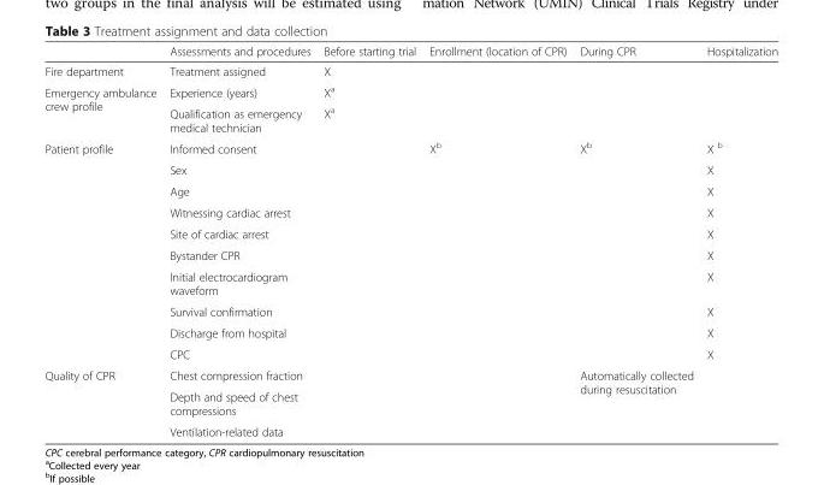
<table><thead><tr><td></td><td>Assessments and procedures</td><td>Before starting trial</td><td>Enrollment (location of CPR)</td><td>During CPR</td><td>Hospitalization</td></tr></thead><tbody><tr><td>Fire department</td><td>Treatment assigned</td><td>X</td><td></td><td></td><td></td></tr><tr><td rowspan="2">Emergency ambulance crew profile</td><td>Experience (years)</td><td>X<sup>a</sup></td><td></td><td></td><td></td></tr><tr><td>Qualification as emergency medical technician</td><td>X<sup>a</sup></td><td></td><td></td><td></td></tr><tr><td rowspan="10">Patient profile</td><td>Informed consent</td><td></td><td>X<sup>b</sup></td><td>X<sup>b</sup></td><td>X <sup>b</sup></td></tr><tr><td>Sex</td><td></td><td></td><td></td><td>X</td></tr><tr><td>Age</td><td></td><td></td><td></td><td>X</td></tr><tr><td>Witnessing cardiac arrest</td><td></td><td></td><td></td><td>X</td></tr><tr><td>Site of cardiac arrest</td><td></td><td></td><td></td><td>X</td></tr><tr><td>Bystander CPR</td><td></td><td></td><td></td><td>X</td></tr><tr><td>Initial electrocardiogram waveform</td><td></td><td></td><td></td><td>X</td></tr><tr><td>Survival confirmation</td><td></td><td></td><td></td><td>X</td></tr><tr><td>Discharge from hospital</td><td></td><td></td><td></td><td>X</td></tr><tr><td>CPC</td><td></td><td></td><td></td><td>X</td></tr><tr><td rowspan="3">Quality of CPR</td><td>Chest compression fraction</td><td></td><td></td><td rowspan="3">Automatically collected during resuscitation</td><td></td></tr><tr><td>Depth and speed of chest compressions</td><td></td><td></td><td></td></tr><tr><td>Ventilation-related data</td><td></td><td></td><td></td></tr></tbody></table>